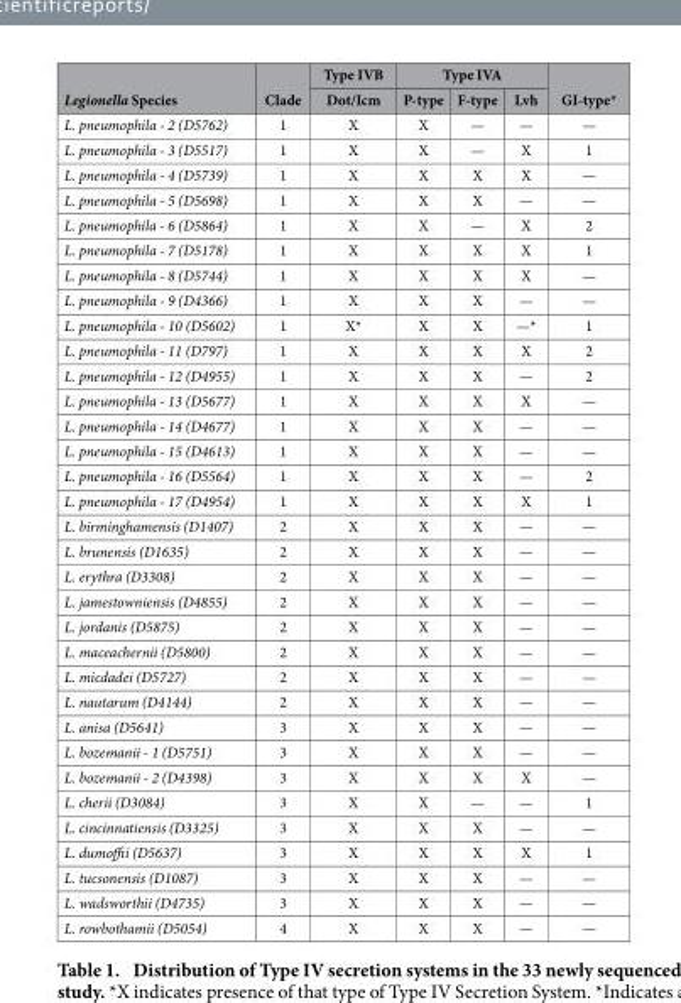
<table><thead><tr><td rowspan="2">Legionella Species</td><td rowspan="2">Clade</td><td rowspan="2">Type IVB Dot/Icm</td><td colspan="3">Type IVA</td><td rowspan="2">GI-type*</td></tr><tr><td>P-type</td><td>F-type</td><td>Lvh</td></tr></thead><tbody><tr><td>L. pneumophila - 2 (D5762)</td><td>1</td><td>X</td><td>X</td><td>—</td><td>—</td><td>—</td></tr><tr><td>L. pneumophila - 3 (D5517)</td><td>1</td><td>X</td><td>X</td><td>—</td><td>X</td><td>1</td></tr><tr><td>L. pneumophila - 4 (D5739)</td><td>1</td><td>X</td><td>X</td><td>X</td><td>X</td><td>—</td></tr><tr><td>L. pneumophila - 5 (D5698)</td><td>1</td><td>X</td><td>X</td><td>X</td><td>—</td><td>—</td></tr><tr><td>L. pneumophila - 6 (D5864)</td><td>1</td><td>X</td><td>X</td><td>—</td><td>X</td><td>2</td></tr><tr><td>L. pneumophila - 7 (D5178)</td><td>1</td><td>X</td><td>X</td><td>X</td><td>X</td><td>1</td></tr><tr><td>L. pneumophila - 8 (D5744)</td><td>1</td><td>X</td><td>X</td><td>X</td><td>X</td><td>—</td></tr><tr><td>L. pneumophila - 9 (D4366)</td><td>1</td><td>X</td><td>X</td><td>X</td><td>—</td><td>—</td></tr><tr><td>L. pneumophila - 10 (D5602)</td><td>1</td><td>X*</td><td>X</td><td>X</td><td>—*</td><td>1</td></tr><tr><td>L. pneumophila - 11 (D797)</td><td>1</td><td>X</td><td>X</td><td>X</td><td>X</td><td>2</td></tr><tr><td>L. pneumophila - 12 (D4955)</td><td>1</td><td>X</td><td>X</td><td>X</td><td>—</td><td>2</td></tr><tr><td>L. pneumophila - 13 (D5677)</td><td>1</td><td>X</td><td>X</td><td>X</td><td>X</td><td>—</td></tr><tr><td>L. pneumophila - 14 (D4677)</td><td>1</td><td>X</td><td>X</td><td>X</td><td>—</td><td>—</td></tr><tr><td>L. pneumophila - 15 (D4613)</td><td>1</td><td>X</td><td>X</td><td>X</td><td>—</td><td>—</td></tr><tr><td>L. pneumophila - 16 (D5564)</td><td>1</td><td>X</td><td>X</td><td>X</td><td>—</td><td>2</td></tr><tr><td>L. pneumophila - 17 (D4954)</td><td>1</td><td>X</td><td>X</td><td>X</td><td>X</td><td>1</td></tr><tr><td>L. birminghamensis (D1407)</td><td>2</td><td>X</td><td>X</td><td>X</td><td>—</td><td>—</td></tr><tr><td>L. brunensis (D1635)</td><td>2</td><td>X</td><td>X</td><td>X</td><td>—</td><td>—</td></tr><tr><td>L. erythra (D3308)</td><td>2</td><td>X</td><td>X</td><td>X</td><td>—</td><td>—</td></tr><tr><td>L. jamestowniensis (D4855)</td><td>2</td><td>X</td><td>X</td><td>X</td><td>—</td><td>—</td></tr><tr><td>L. jordanis (D5875)</td><td>2</td><td>X</td><td>X</td><td>X</td><td>—</td><td>—</td></tr><tr><td>L. maceachernii (D5800)</td><td>2</td><td>X</td><td>X</td><td>X</td><td>—</td><td>—</td></tr><tr><td>L. micdadei (D5727)</td><td>2</td><td>X</td><td>X</td><td>X</td><td>—</td><td>—</td></tr><tr><td>L. nautarum (D4144)</td><td>2</td><td>X</td><td>X</td><td>X</td><td>—</td><td>—</td></tr><tr><td>L. anisa (D5641)</td><td>3</td><td>X</td><td>X</td><td>X</td><td>—</td><td>—</td></tr><tr><td>L. bozemanii - 1 (D5751)</td><td>3</td><td>X</td><td>X</td><td>X</td><td>—</td><td>—</td></tr><tr><td>L. bozemanii - 2 (D4398)</td><td>3</td><td>X</td><td>X</td><td>X</td><td>X</td><td>—</td></tr><tr><td>L. cherii (D3084)</td><td>3</td><td>X</td><td>X</td><td>—</td><td>—</td><td>1</td></tr><tr><td>L. cincinnatiensis (D3325)</td><td>3</td><td>X</td><td>X</td><td>X</td><td>—</td><td>—</td></tr><tr><td>L. dumoffii (D5637)</td><td>3</td><td>X</td><td>X</td><td>X</td><td>X</td><td>1</td></tr><tr><td>L. tucsonensis (D1087)</td><td>3</td><td>X</td><td>X</td><td>X</td><td>—</td><td>—</td></tr><tr><td>L. wadsworthii (D4735)</td><td>3</td><td>X</td><td>X</td><td>X</td><td>—</td><td>—</td></tr><tr><td>L. rowbothamii (D5054)</td><td>4</td><td>X</td><td>X</td><td>X</td><td>—</td><td>—</td></tr></tbody></table>